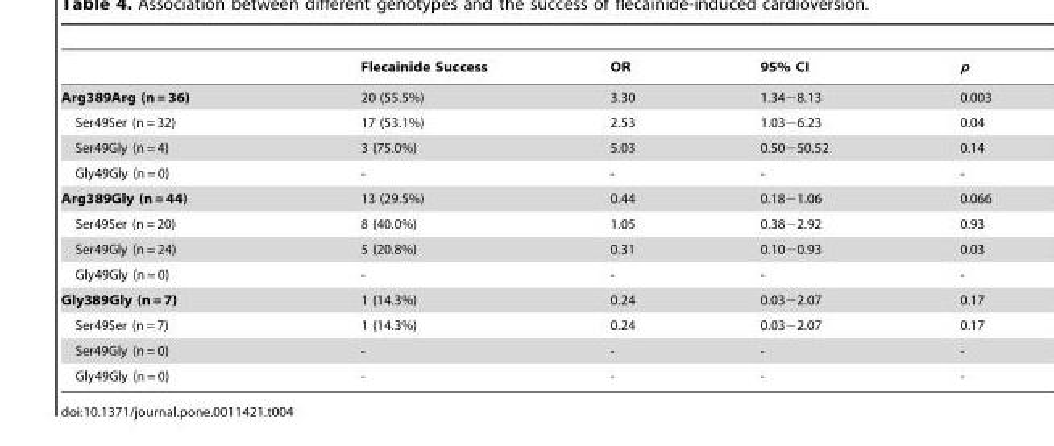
<table><thead><tr><td></td><td>Flecainide Success</td><td>OR</td><td>95% CI</td><td>p</td></tr></thead><tbody><tr><td>Arg389Arg (n = 36)</td><td>20 (55.5%)</td><td>3.30</td><td>1.34−8.13</td><td>0.003</td></tr><tr><td>Ser49Ser (n = 32)</td><td>17 (53.1%)</td><td>2.53</td><td>1.03−6.23</td><td>0.04</td></tr><tr><td>Ser49Gly (n = 4)</td><td>3 (75.0%)</td><td>5.03</td><td>0.50−50.52</td><td>0.14</td></tr><tr><td>Gly49Gly (n = 0)</td><td>-</td><td>-</td><td>-</td><td>-</td></tr><tr><td>Arg389Gly (n = 44)</td><td>13 (29.5%)</td><td>0.44</td><td>0.18−1.06</td><td>0.066</td></tr><tr><td>Ser49Ser (n = 20)</td><td>8 (40.0%)</td><td>1.05</td><td>0.38−2.92</td><td>0.93</td></tr><tr><td>Ser49Gly (n = 24)</td><td>5 (20.8%)</td><td>0.31</td><td>0.10−0.93</td><td>0.03</td></tr><tr><td>Gly49Gly (n = 0)</td><td>-</td><td>-</td><td>-</td><td>-</td></tr><tr><td>Gly389Gly (n = 7)</td><td>1 (14.3%)</td><td>0.24</td><td>0.03−2.07</td><td>0.17</td></tr><tr><td>Ser49Ser (n = 7)</td><td>1 (14.3%)</td><td>0.24</td><td>0.03−2.07</td><td>0.17</td></tr><tr><td>Ser49Gly (n = 0)</td><td>-</td><td>-</td><td>-</td><td>-</td></tr><tr><td>Gly49Gly (n = 0)</td><td>-</td><td>-</td><td>-</td><td>-</td></tr></tbody></table>